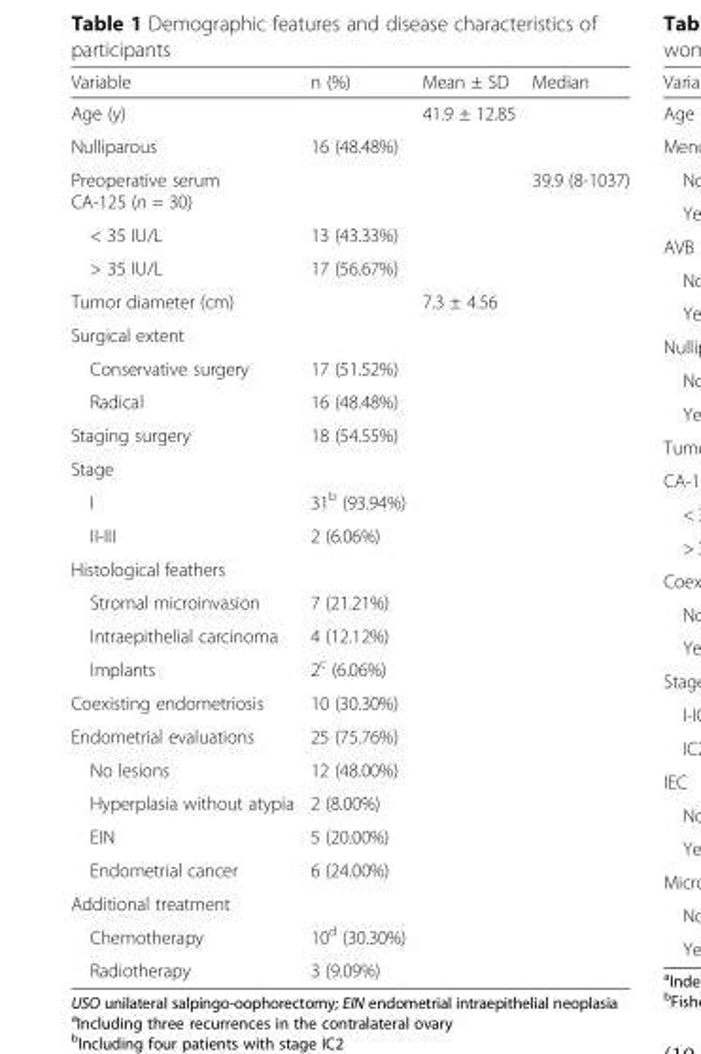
<table><thead><tr><td>Variable</td><td>n (%)</td><td>Mean ± SD</td><td>Median</td></tr></thead><tbody><tr><td>Age (y)</td><td></td><td>41.9 ± 12.85</td><td></td></tr><tr><td>Nulliparous</td><td>16 (48.48%)</td><td></td><td></td></tr><tr><td>Preoperative serum CA-125 (n = 30)</td><td></td><td></td><td>39.9 (8-1037)</td></tr><tr><td>&lt; 35 IU/L</td><td>13 (43.33%)</td><td></td><td></td></tr><tr><td>&gt; 35 IU/L</td><td>17 (56.67%)</td><td></td><td></td></tr><tr><td>Tumor diameter (cm)</td><td></td><td>7.3 ± 4.56</td><td></td></tr><tr><td colspan="4">Surgical extent</td></tr><tr><td>Conservative surgery</td><td>17 (51.52%)</td><td></td><td></td></tr><tr><td>Radical</td><td>16 (48.48%)</td><td></td><td></td></tr><tr><td>Staging surgery</td><td>18 (54.55%)</td><td></td><td></td></tr><tr><td colspan="4">Stage</td></tr><tr><td>I</td><td>31<sup>b</sup> (93.94%)</td><td></td><td></td></tr><tr><td>II-III</td><td>2 (6.06%)</td><td></td><td></td></tr><tr><td colspan="4">Histological feathers</td></tr><tr><td>Stromal microinvasion</td><td>7 (21.21%)</td><td></td><td></td></tr><tr><td>Intraepithelial carcinoma</td><td>4 (12.12%)</td><td></td><td></td></tr><tr><td>Implants</td><td>2<sup>c</sup> (6.06%)</td><td></td><td></td></tr><tr><td>Coexisting endometriosis</td><td>10 (30.30%)</td><td></td><td></td></tr><tr><td>Endometrial evaluations</td><td>25 (75.76%)</td><td></td><td></td></tr><tr><td>No lesions</td><td>12 (48.00%)</td><td></td><td></td></tr><tr><td>Hyperplasia without atypia</td><td>2 (8.00%)</td><td></td><td></td></tr><tr><td>EIN</td><td>5 (20.00%)</td><td></td><td></td></tr><tr><td>Endometrial cancer</td><td>6 (24.00%)</td><td></td><td></td></tr><tr><td colspan="4">Additional treatment</td></tr><tr><td>Chemotherapy</td><td>10<sup>d</sup> (30.30%)</td><td></td><td></td></tr><tr><td>Radiotherapy</td><td>3 (9.09%)</td><td></td><td></td></tr></tbody></table>